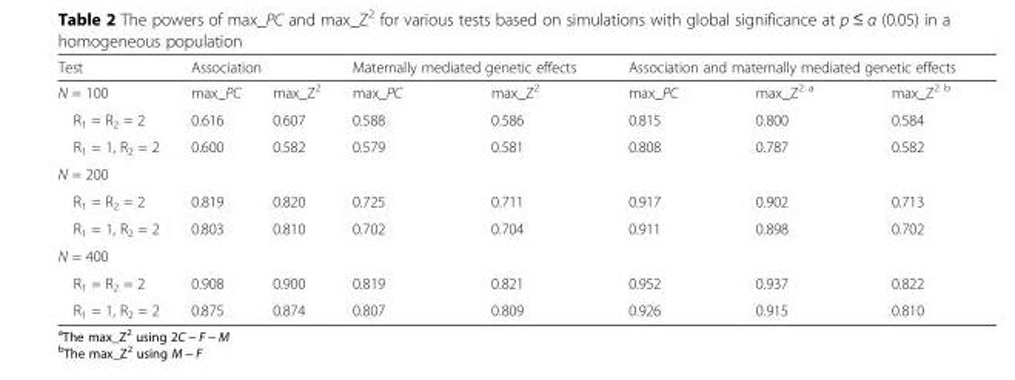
<table><thead><tr><td rowspan="2">Test N = 100</td><td colspan="2">Association</td><td colspan="2">Maternally mediated genetic effects</td><td colspan="3">Association and maternally mediated genetic effects</td></tr><tr><td>max_PC</td><td>max_Z<sup>2</sup></td><td>max_PC</td><td>max_Z<sup>2</sup></td><td>max_PC</td><td>max_Z<sup>2 a</sup></td><td>max_Z<sup>2 b</sup></td></tr></thead><tbody><tr><td>R<sub>1</sub> = R<sub>2</sub> = 2</td><td>0.616</td><td>0.607</td><td>0.588</td><td>0.586</td><td>0.815</td><td>0.800</td><td>0.584</td></tr><tr><td>R<sub>1</sub> = 1, R<sub>2</sub> = 2</td><td>0.600</td><td>0.582</td><td>0.579</td><td>0.581</td><td>0.808</td><td>0.787</td><td>0.582</td></tr><tr><td colspan="8">N = 200</td></tr><tr><td>R<sub>1</sub> = R<sub>2</sub> = 2</td><td>0.819</td><td>0.820</td><td>0.725</td><td>0.711</td><td>0.917</td><td>0.902</td><td>0.713</td></tr><tr><td>R<sub>1</sub> = 1, R<sub>2</sub> = 2</td><td>0.803</td><td>0.810</td><td>0.702</td><td>0.704</td><td>0.911</td><td>0.898</td><td>0.702</td></tr><tr><td colspan="8">N = 400</td></tr><tr><td>R<sub>1</sub> = R<sub>2</sub> = 2</td><td>0.908</td><td>0.900</td><td>0.819</td><td>0.821</td><td>0.952</td><td>0.937</td><td>0.822</td></tr><tr><td>R<sub>1</sub> = 1, R<sub>2</sub> = 2</td><td>0.875</td><td>0.874</td><td>0.807</td><td>0.809</td><td>0.926</td><td>0.915</td><td>0.810</td></tr></tbody></table>